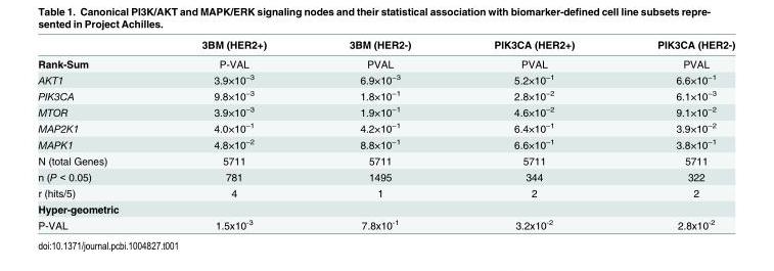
<table><thead><tr><td></td><td>3BM (HER2+)</td><td>3BM (HER2-)</td><td>PIK3CA (HER2+)</td><td>PIK3CA (HER2-)</td></tr></thead><tbody><tr><td>Rank-Sum</td><td>P-VAL</td><td>PVAL</td><td>PVAL</td><td>PVAL</td></tr><tr><td>AKT1</td><td>3.9×10<sup>−3</sup></td><td>6.9×10<sup>−3</sup></td><td>5.2×10<sup>−1</sup></td><td>6.6×10<sup>−1</sup></td></tr><tr><td>PIK3CA</td><td>9.8×10<sup>−3</sup></td><td>1.8×10<sup>−1</sup></td><td>2.8×10<sup>−2</sup></td><td>6.1×10<sup>−3</sup></td></tr><tr><td>MTOR</td><td>3.9×10<sup>−3</sup></td><td>1.9×10<sup>−1</sup></td><td>4.6×10<sup>−2</sup></td><td>9.1×10<sup>−2</sup></td></tr><tr><td>MAP2K1</td><td>4.0×10<sup>−1</sup></td><td>4.2×10<sup>−1</sup></td><td>6.4×10<sup>−1</sup></td><td>3.9×10<sup>−2</sup></td></tr><tr><td>MAPK1</td><td>4.8×10<sup>−2</sup></td><td>8.8×10<sup>−1</sup></td><td>6.6×10<sup>−1</sup></td><td>3.8×10<sup>−1</sup></td></tr><tr><td>N (total Genes)</td><td>5711</td><td>5711</td><td>5711</td><td>5711</td></tr><tr><td>n (P &lt; 0.05)</td><td>781</td><td>1495</td><td>344</td><td>322</td></tr><tr><td>r (hits/5)</td><td>4</td><td>1</td><td>2</td><td>2</td></tr><tr><td colspan="5">Hyper-geometric</td></tr><tr><td>P-VAL</td><td>1.5x10<sup>-3</sup></td><td>7.8x10<sup>-1</sup></td><td>3.2x10<sup>-2</sup></td><td>2.8x10<sup>-2</sup></td></tr></tbody></table>